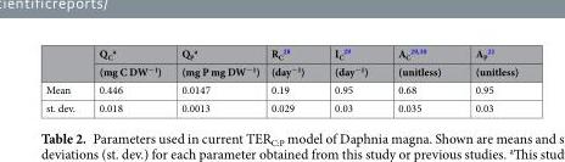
<table><thead><tr><td rowspan="2"></td><td rowspan="2">Q<sub>C</sub> <sup>a</sup> (mg C DW<sup>−1</sup>)</td><td rowspan="2">Q<sub>P</sub> <sup>a</sup> (mg P mg DW<sup>−1</sup>)</td><td rowspan="2">R<sub>C</sub> <sup>28</sup> (day<sup>−1</sup>)</td><td rowspan="2">I<sub>C</sub> <sup>29</sup> (day<sup>−1</sup>)</td><td rowspan="2">A<sub>C</sub> <sup>29,30</sup> (unitless)</td><td rowspan="2">A<sub>P</sub> <sup>21</sup> (unitless)</td></tr><tr></tr></thead><tbody><tr><td>Mean</td><td>0.446</td><td>0.0147</td><td>0.19</td><td>0.95</td><td>0.68</td><td>0.95</td></tr><tr><td>st. dev.</td><td>0.018</td><td>0.0013</td><td>0.029</td><td>0.03</td><td>0.035</td><td>0.03</td></tr></tbody></table>